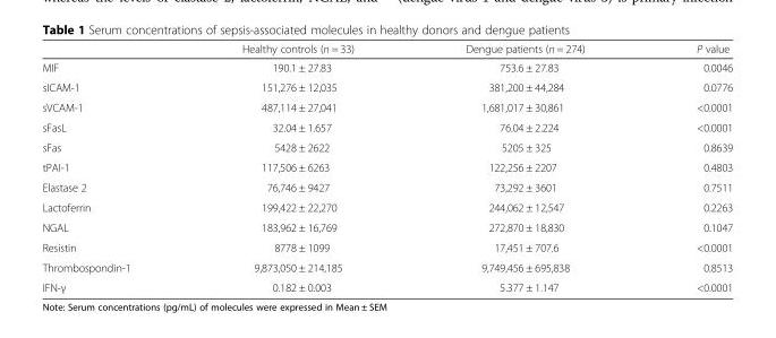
<table><thead><tr><td></td><td>Healthy controls (n = 33)</td><td>Dengue patients (n = 274)</td><td>P value</td></tr></thead><tbody><tr><td>MIF</td><td>190.1 ± 27.83</td><td>753.6 ± 27.83</td><td>0.0046</td></tr><tr><td>sICAM-1</td><td>151,276 ± 12,035</td><td>381,200 ± 44,284</td><td>0.0776</td></tr><tr><td>sVCAM-1</td><td>487,114 ± 27,041</td><td>1,681,017 ± 30,861</td><td>&lt;0.0001</td></tr><tr><td>sFasL</td><td>32.04 ± 1.657</td><td>76.04 ± 2.224</td><td>&lt;0.0001</td></tr><tr><td>sFas</td><td>5428 ± 2622</td><td>5205 ± 325</td><td>0.8639</td></tr><tr><td>tPAI-1</td><td>117,506 ± 6263</td><td>122,256 ± 2207</td><td>0.4803</td></tr><tr><td>Elastase 2</td><td>76,746 ± 9427</td><td>73,292 ± 3601</td><td>0.7511</td></tr><tr><td>Lactoferrin</td><td>199,422 ± 22,270</td><td>244,062 ± 12,547</td><td>0.2263</td></tr><tr><td>NGAL</td><td>183,962 ± 16,769</td><td>272,870 ± 18,830</td><td>0.1047</td></tr><tr><td>Resistin</td><td>8778 ± 1099</td><td>17,451 ± 707.6</td><td>&lt;0.0001</td></tr><tr><td>Thrombospondin-1</td><td>9,873,050 ± 214,185</td><td>9,749,456 ± 695,838</td><td>0.8513</td></tr><tr><td>IFN-γ</td><td>0.182 ± 0.003</td><td>5.377 ± 1.147</td><td>&lt;0.0001</td></tr></tbody></table>